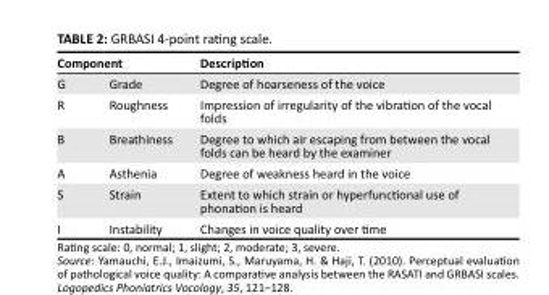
<table><thead><tr><td colspan="2">Component</td><td rowspan="2">Description Degree of hoarseness of the voice</td></tr><tr><td>G</td><td>Grade</td></tr></thead><tbody><tr><td>R</td><td>Roughness</td><td>Impression of irregularity of the vibration of the vocal folds</td></tr><tr><td>B</td><td>Breathiness</td><td>Degree to which air escaping from between the vocal folds can be heard by the examiner</td></tr><tr><td>A</td><td>Asthenia</td><td>Degree of weakness heard in the voice</td></tr><tr><td>S</td><td>Strain</td><td>Extent to which strain or hyperfunctional use of phonation is heard</td></tr><tr><td>I</td><td>Instability</td><td>Changes in voice quality over time</td></tr></tbody></table>